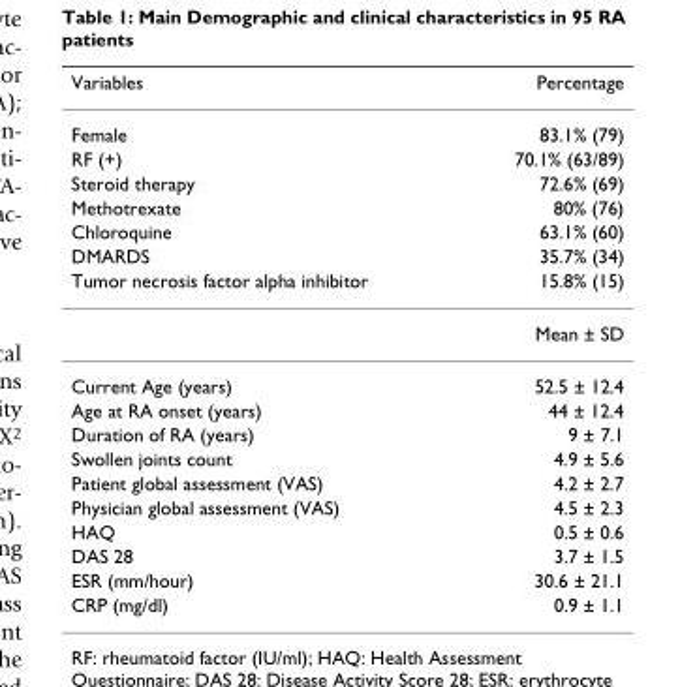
<table><thead><tr><td>Variables</td><td>Percentage</td></tr></thead><tbody><tr><td>Female</td><td>83.1% (79)</td></tr><tr><td>RF (+)</td><td>70.1% (63/89)</td></tr><tr><td>Steroid therapy</td><td>72.6% (69)</td></tr><tr><td>Methotrexate</td><td>80% (76)</td></tr><tr><td>Chloroquine</td><td>63.1% (60)</td></tr><tr><td>DMARDS</td><td>35.7% (34)</td></tr><tr><td rowspan="2">Tumor necrosis factor alpha inhibitor</td><td>15.8% (15)</td></tr><tr><td>Mean ± SD</td></tr><tr><td>Current Age (years)</td><td>52.5 ± 12.4</td></tr><tr><td>Age at RA onset (years)</td><td>44 ± 12.4</td></tr><tr><td>Duration of RA (years)</td><td>9 ± 7.1</td></tr><tr><td>Swollen joints count</td><td>4.9 ± 5.6</td></tr><tr><td>Patient global assessment (VAS)</td><td>4.2 ± 2.7</td></tr><tr><td>Physician global assessment (VAS)</td><td>4.5 ± 2.3</td></tr><tr><td>HAQ</td><td>0.5 ± 0.6</td></tr><tr><td>DAS 28</td><td>3.7 ± 1.5</td></tr><tr><td>ESR (mm/hour)</td><td>30.6 ± 21.1</td></tr><tr><td>CRP (mg/dl)</td><td>0.9 ± 1.1</td></tr></tbody></table>